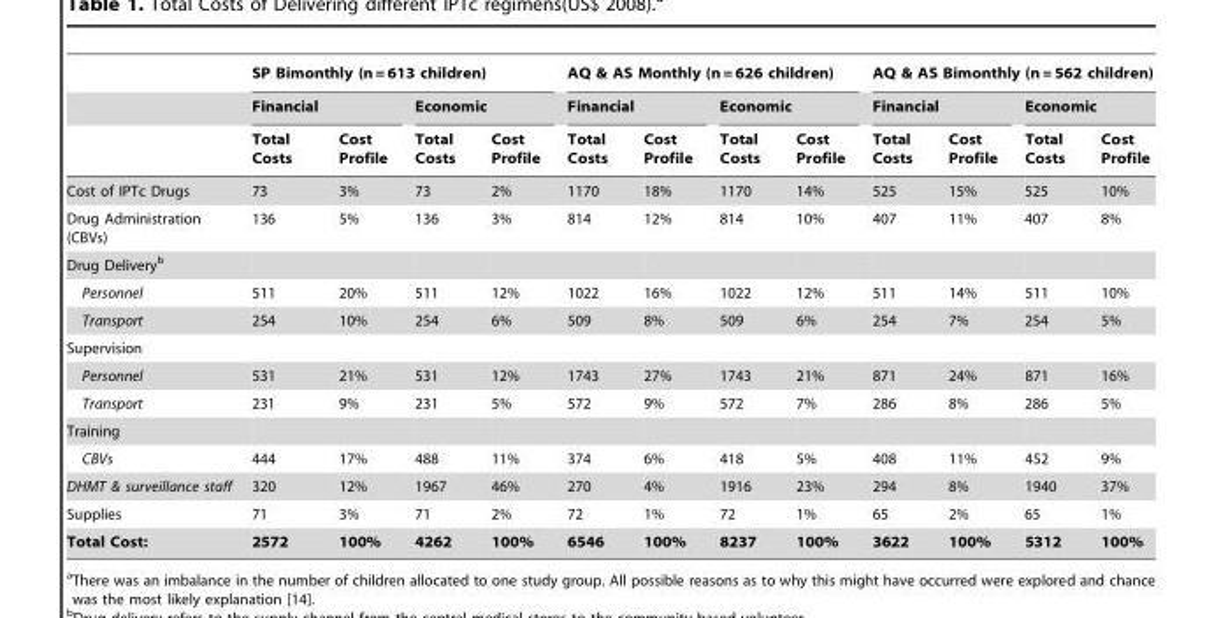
<table><thead><tr><td rowspan="3"></td><td colspan="4">SP Bimonthly (n = 613 children)</td><td colspan="4">AQ &amp; AS Monthly (n = 626 children)</td><td colspan="4">AQ &amp; AS Bimonthly (n = 562 children)</td></tr><tr><td colspan="2">Financial</td><td colspan="2">Economic</td><td colspan="2">Financial</td><td colspan="2">Economic</td><td colspan="2">Financial</td><td colspan="2">Economic</td></tr><tr><td>Total Costs</td><td>Cost Profile</td><td>Total Costs</td><td>Cost Profile</td><td>Total Costs</td><td>Cost Profile</td><td>Total Costs</td><td>Cost Profile</td><td>Total Costs</td><td>Cost Profile</td><td>Total Costs</td><td>Cost Profile</td></tr></thead><tbody><tr><td>Cost of IPTc Drugs</td><td>73</td><td>3%</td><td>73</td><td>2%</td><td>1170</td><td>18%</td><td>1170</td><td>14%</td><td>525</td><td>15%</td><td>525</td><td>10%</td></tr><tr><td>Drug Administration (CBVs)</td><td>136</td><td>5%</td><td>136</td><td>3%</td><td>814</td><td>12%</td><td>814</td><td>10%</td><td>407</td><td>11%</td><td>407</td><td>8%</td></tr><tr><td colspan="13">Drug Delivery<sup>b</sup></td></tr><tr><td>Personnel</td><td>511</td><td>20%</td><td>511</td><td>12%</td><td>1022</td><td>16%</td><td>1022</td><td>12%</td><td>511</td><td>14%</td><td>511</td><td>10%</td></tr><tr><td>Transport</td><td>254</td><td>10%</td><td>254</td><td>6%</td><td>509</td><td>8%</td><td>509</td><td>6%</td><td>254</td><td>7%</td><td>254</td><td>5%</td></tr><tr><td colspan="13">Supervision</td></tr><tr><td>Personnel</td><td>531</td><td>21%</td><td>531</td><td>12%</td><td>1743</td><td>27%</td><td>1743</td><td>21%</td><td>871</td><td>24%</td><td>871</td><td>16%</td></tr><tr><td>Transport</td><td>231</td><td>9%</td><td>231</td><td>5%</td><td>572</td><td>9%</td><td>572</td><td>7%</td><td>286</td><td>8%</td><td>286</td><td>5%</td></tr><tr><td colspan="13">Training</td></tr><tr><td>CBVs</td><td>444</td><td>17%</td><td>488</td><td>11%</td><td>374</td><td>6%</td><td>418</td><td>5%</td><td>408</td><td>11%</td><td>452</td><td>9%</td></tr><tr><td>DHMT &amp; surveillance staff</td><td>320</td><td>12%</td><td>1967</td><td>46%</td><td>270</td><td>4%</td><td>1916</td><td>23%</td><td>294</td><td>8%</td><td>1940</td><td>37%</td></tr><tr><td>Supplies</td><td>71</td><td>3%</td><td>71</td><td>2%</td><td>72</td><td>1%</td><td>72</td><td>1%</td><td>65</td><td>2%</td><td>65</td><td>1%</td></tr><tr><td>Total Cost:</td><td>2572</td><td>100%</td><td>4262</td><td>100%</td><td>6546</td><td>100%</td><td>8237</td><td>100%</td><td>3622</td><td>100%</td><td>5312</td><td>100%</td></tr></tbody></table>